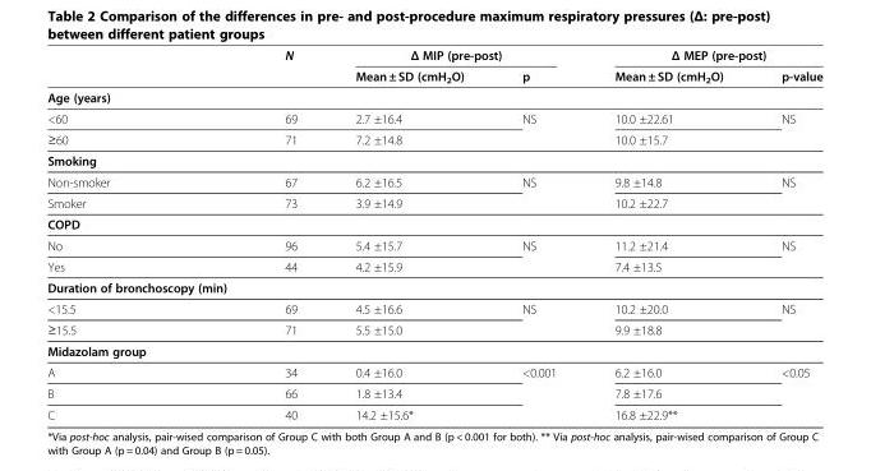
<table><thead><tr><td rowspan="2"></td><td rowspan="2">N</td><td colspan="2">Δ MIP (pre-post)</td><td colspan="2">Δ MEP (pre-post)</td></tr><tr><td>Mean ± SD (cmH<sub>2</sub>O)</td><td>p</td><td>Mean ± SD (cmH<sub>2</sub>O)</td><td>p-value</td></tr></thead><tbody><tr><td colspan="6">Age (years)</td></tr><tr><td>&lt;60</td><td>69</td><td>2.7 ±16.4</td><td rowspan="2">NS</td><td>10.0 ±22.61</td><td rowspan="2">NS</td></tr><tr><td>≥60</td><td>71</td><td>7.2 ±14.8</td><td>10.0 ±15.7</td></tr><tr><td colspan="6">Smoking</td></tr><tr><td>Non-smoker</td><td>67</td><td>6.2 ±16.5</td><td rowspan="2">NS</td><td>9.8 ±14.8</td><td rowspan="2">NS</td></tr><tr><td>Smoker</td><td>73</td><td>3.9 ±14.9</td><td>10.2 ±22.7</td></tr><tr><td colspan="6">COPD</td></tr><tr><td>No</td><td>96</td><td>5.4 ±15.7</td><td rowspan="2">NS</td><td>11.2 ±21.4</td><td rowspan="2">NS</td></tr><tr><td>Yes</td><td>44</td><td>4.2 ±15.9</td><td>7.4 ±13.5</td></tr><tr><td colspan="6">Duration of bronchoscopy (min)</td></tr><tr><td>&lt;15.5</td><td>69</td><td>4.5 ±16.6</td><td rowspan="2">NS</td><td>10.2 ±20.0</td><td rowspan="2">NS</td></tr><tr><td>≥15.5</td><td>71</td><td>5.5 ±15.0</td><td>9.9 ±18.8</td></tr><tr><td colspan="6">Midazolam group</td></tr><tr><td>A</td><td>34</td><td>0.4 ±16.0</td><td rowspan="3">&lt;0.001</td><td>6.2 ±16.0</td><td rowspan="3">&lt;0.05</td></tr><tr><td>B</td><td>66</td><td>1.8 ±13.4</td><td>7.8 ±17.6</td></tr><tr><td>C</td><td>40</td><td>14.2 ±15.6*</td><td>16.8 ±22.9**</td></tr></tbody></table>